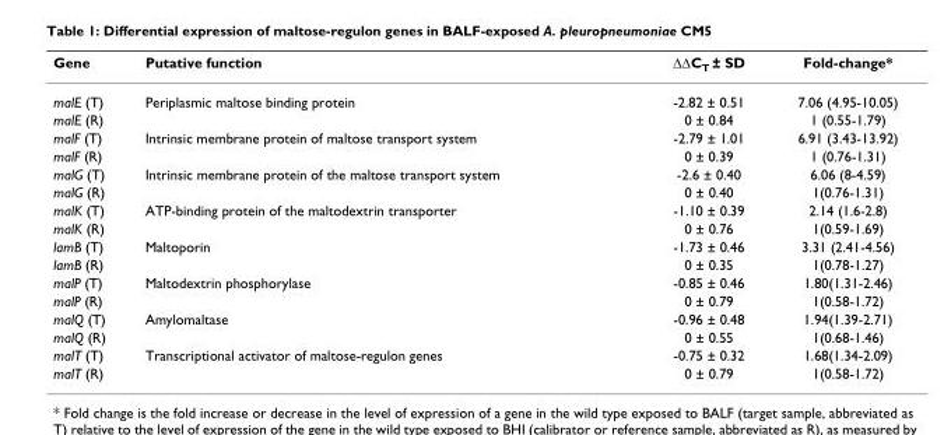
<table><thead><tr><td>Gene</td><td>Putative function</td><td>ΔΔC<sub>T</sub> ± SD</td><td>Fold-change*</td></tr></thead><tbody><tr><td>malE (T)</td><td>Periplasmic maltose binding protein</td><td>-2.82 ± 0.51</td><td>7.06 (4.95-10.05)</td></tr><tr><td>malE (R)</td><td></td><td>0 ± 0.84</td><td>1 (0.55-1.79)</td></tr><tr><td>malF (T)</td><td>Intrinsic membrane protein of maltose transport system</td><td>-2.79 ± 1.01</td><td>6.91 (3.43-13.92)</td></tr><tr><td>malF (R)</td><td></td><td>0 ± 0.39</td><td>1 (0.76-1.31)</td></tr><tr><td>malG (T)</td><td>Intrinsic membrane protein of the maltose transport system</td><td>-2.6 ± 0.40</td><td>6.06 (8-4.59)</td></tr><tr><td>malG (R)</td><td></td><td>0 ± 0.40</td><td>1(0.76-1.31)</td></tr><tr><td>malK (T)</td><td>ATP-binding protein of the maltodextrin transporter</td><td>-1.10 ± 0.39</td><td>2.14 (1.6-2.8)</td></tr><tr><td>malK (R)</td><td></td><td>0 ± 0.76</td><td>1(0.59-1.69)</td></tr><tr><td>lamB (T)</td><td>Maltoporin</td><td>-1.73 ± 0.46</td><td>3.31 (2.41-4.56)</td></tr><tr><td>lamB (R)</td><td></td><td>0 ± 0.35</td><td>1(0.78-1.27)</td></tr><tr><td>malP (T)</td><td>Maltodextrin phosphorylase</td><td>-0.85 ± 0.46</td><td>1.80(1.31-2.46)</td></tr><tr><td>malP (R)</td><td></td><td>0 ± 0.79</td><td>1(0.58-1.72)</td></tr><tr><td>malQ (T)</td><td>Amylomaltase</td><td>-0.96 ± 0.48</td><td>1.94(1.39-2.71)</td></tr><tr><td>malQ (R)</td><td></td><td>0 ± 0.55</td><td>1(0.68-1.46)</td></tr><tr><td>malT (T)</td><td>Transcriptional activator of maltose-regulon genes</td><td>-0.75 ± 0.32</td><td>1.68(1.34-2.09)</td></tr><tr><td>malT (R)</td><td></td><td>0 ± 0.79</td><td>1(0.58-1.72)</td></tr></tbody></table>